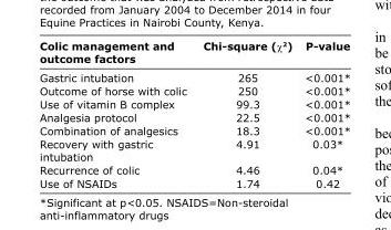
<table><thead><tr><td>Colic management and outcome factors</td><td>Chi-square (χ<sup>2</sup>)</td><td>P-value</td></tr></thead><tbody><tr><td>Gastric intubation</td><td>265</td><td>&lt;0.001*</td></tr><tr><td>Outcome of horse with colic</td><td>250</td><td>&lt;0.001*</td></tr><tr><td>Use of vitamin B complex</td><td>99.3</td><td>&lt;0.001*</td></tr><tr><td>Analgesia protocol</td><td>22.5</td><td>&lt;0.001*</td></tr><tr><td>Combination of analgesics</td><td>18.3</td><td>&lt;0.001*</td></tr><tr><td>Recovery with gastric intubation</td><td>4.91</td><td>0.03*</td></tr><tr><td>Recurrence of colic</td><td>4.46</td><td>0.04*</td></tr><tr><td>Use of NSAIDs</td><td>1.74</td><td>0.42</td></tr></tbody></table>